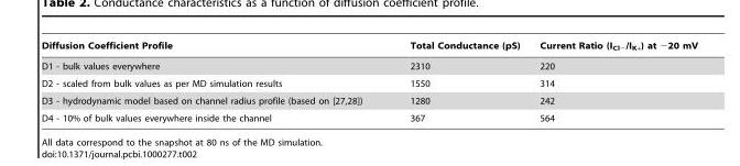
<table><thead><tr><td>Diffusion Coefficient Profile</td><td>Total Conductance (pS)</td><td>Current Ratio (I<sub>Cl−</sub>/I<sub>K+</sub>) at −20 mV</td></tr></thead><tbody><tr><td>D1 - bulk values everywhere</td><td>2310</td><td>220</td></tr><tr><td>D2 - scaled from bulk values as per MD simulation results</td><td>1550</td><td>314</td></tr><tr><td>D3 - hydrodynamic model based on channel radius profile (based on [27,28])</td><td>1280</td><td>242</td></tr><tr><td>D4 - 10% of bulk values everywhere inside the channel</td><td>367</td><td>564</td></tr></tbody></table>